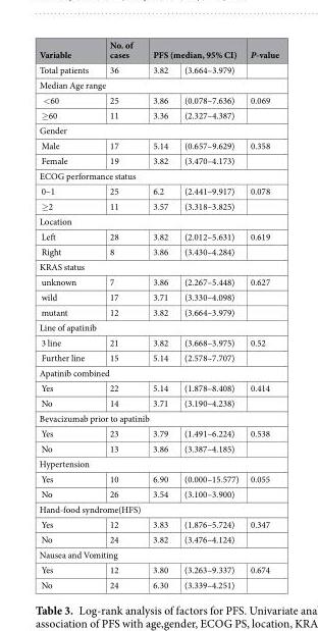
<table><thead><tr><td rowspan="2">Variable Total patients</td><td rowspan="2">No. of cases 36</td><td colspan="2">PFS (median, 95% CI)</td><td rowspan="2">P-value</td></tr><tr><td>3.82</td><td>(3.664–3.979)</td></tr></thead><tbody><tr><td colspan="5">Median Age range</td></tr><tr><td>&lt;60</td><td>25</td><td>3.86</td><td>(0.078–7.636)</td><td>0.069</td></tr><tr><td>≥60</td><td>11</td><td>3.36</td><td>(2.327–4.387)</td><td></td></tr><tr><td colspan="5">Gender</td></tr><tr><td>Male</td><td>17</td><td>5.14</td><td>(0.657–9.629)</td><td>0.358</td></tr><tr><td>Female</td><td>19</td><td>3.82</td><td>(3.470–4.173)</td><td></td></tr><tr><td colspan="5">ECOG performance status</td></tr><tr><td>0–1</td><td>25</td><td>6.2</td><td>(2.441–9.917)</td><td>0.078</td></tr><tr><td>≥2</td><td>11</td><td>3.57</td><td>(3.318–3.825)</td><td></td></tr><tr><td colspan="5">Location</td></tr><tr><td>Left</td><td>28</td><td>3.82</td><td>(2.012–5.631)</td><td>0.619</td></tr><tr><td>Right</td><td>8</td><td>3.86</td><td>(3.430–4.284)</td><td></td></tr><tr><td colspan="5">KRAS status</td></tr><tr><td>unknown</td><td>7</td><td>3.86</td><td>(2.267–5.448)</td><td>0.627</td></tr><tr><td>wild</td><td>17</td><td>3.71</td><td>(3.330–4.098)</td><td></td></tr><tr><td>mutant</td><td>12</td><td>3.82</td><td>(3.664–3.979)</td><td></td></tr><tr><td colspan="5">Line of apatinib</td></tr><tr><td>3 line</td><td>21</td><td>3.82</td><td>(3.668–3.975)</td><td>0.52</td></tr><tr><td>Further line</td><td>15</td><td>5.14</td><td>(2.578–7.707)</td><td></td></tr><tr><td colspan="5">Apatinib combined</td></tr><tr><td>Yes</td><td>22</td><td>5.14</td><td>(1.878–8.408)</td><td>0.414</td></tr><tr><td>No</td><td>14</td><td>3.71</td><td>(3.190–4.238)</td><td></td></tr><tr><td colspan="5">Bevacizumab prior to apatinib</td></tr><tr><td>Yes</td><td>23</td><td>3.79</td><td>(1.491–6.224)</td><td>0.538</td></tr><tr><td>No</td><td>13</td><td>3.86</td><td>(3.387–4.185)</td><td></td></tr><tr><td colspan="5">Hypertension</td></tr><tr><td>Yes</td><td>10</td><td>6.90</td><td>(0.000–15.577)</td><td>0.055</td></tr><tr><td>No</td><td>26</td><td>3.54</td><td>(3.100–3.900)</td><td></td></tr><tr><td colspan="5">Hand-food syndrome(HFS)</td></tr><tr><td>Yes</td><td>12</td><td>3.83</td><td>(1.876–5.724)</td><td>0.347</td></tr><tr><td>No</td><td>24</td><td>3.82</td><td>(3.476–4.124)</td><td></td></tr><tr><td colspan="5">Nausea and Vomiting</td></tr><tr><td>Yes</td><td>12</td><td>3.80</td><td>(3.263–9.337)</td><td>0.674</td></tr><tr><td>No</td><td>24</td><td>6.30</td><td>(3.339–4.251)</td><td></td></tr></tbody></table>